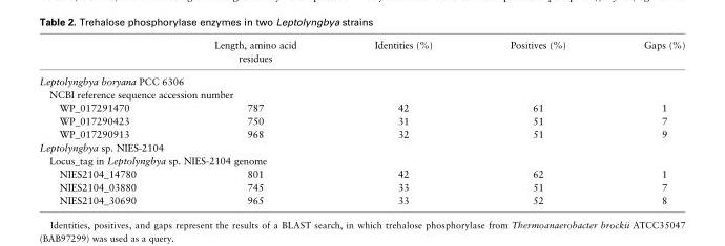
<table><thead><tr><td></td><td>Length, amino acid residues</td><td>Identities (%)</td><td>Positives (%)</td><td>Gaps (%)</td></tr></thead><tbody><tr><td colspan="5">Leptolyngbya boryana PCC 6306</td></tr><tr><td colspan="5">NCBI reference sequence accession number</td></tr><tr><td>WP_017291470</td><td>787</td><td>42</td><td>61</td><td>1</td></tr><tr><td>WP_017290423</td><td>750</td><td>31</td><td>51</td><td>7</td></tr><tr><td>WP_017290913</td><td>968</td><td>32</td><td>51</td><td>9</td></tr><tr><td colspan="5">Leptolyngbya sp. NIES-2104</td></tr><tr><td colspan="5">Locus_tag in Leptolyngbya sp. NIES-2104 genome</td></tr><tr><td>NIES2104_14780</td><td>801</td><td>42</td><td>62</td><td>1</td></tr><tr><td>NIES2104_03880</td><td>745</td><td>33</td><td>51</td><td>7</td></tr><tr><td>NIES2104_30690</td><td>965</td><td>33</td><td>52</td><td>8</td></tr></tbody></table>